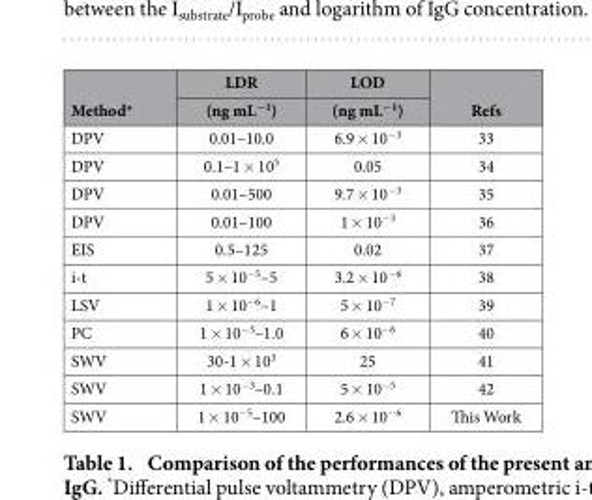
<table><thead><tr><td rowspan="2">Method*</td><td rowspan="2">LDR (ng mL<sup>−1</sup>)</td><td rowspan="2">LOD (ng mL<sup>−1</sup>)</td><td rowspan="2">Refs</td></tr><tr></tr></thead><tbody><tr><td>DPV</td><td>0.01–10.0</td><td>6.9 × 10<sup>−3</sup></td><td>33</td></tr><tr><td>DPV</td><td>0.1–1 × 10<sup>5</sup></td><td>0.05</td><td>34</td></tr><tr><td>DPV</td><td>0.01–500</td><td>9.7 × 10<sup>−3</sup></td><td>35</td></tr><tr><td>DPV</td><td>0.01–100</td><td>1 × 10<sup>−3</sup></td><td>36</td></tr><tr><td>EIS</td><td>0.5–125</td><td>0.02</td><td>37</td></tr><tr><td>i-t</td><td>5 × 10<sup>−5</sup>–5</td><td>3.2 × 10<sup>−6</sup></td><td>38</td></tr><tr><td>LSV</td><td>1 × 10<sup>−6</sup>–1</td><td>5 × 10<sup>−7</sup></td><td>39</td></tr><tr><td>PC</td><td>1 × 10<sup>−5</sup>–1.0</td><td>6 × 10<sup>−6</sup></td><td>40</td></tr><tr><td>SWV</td><td>30-1 × 10<sup>3</sup></td><td>25</td><td>41</td></tr><tr><td>SWV</td><td>1 × 10<sup>−3</sup>–0.1</td><td>5 × 10<sup>−5</sup></td><td>42</td></tr><tr><td>SWV</td><td>1 × 10<sup>−5</sup>–100</td><td>2.6 × 10<sup>−6</sup></td><td>This Work</td></tr></tbody></table>